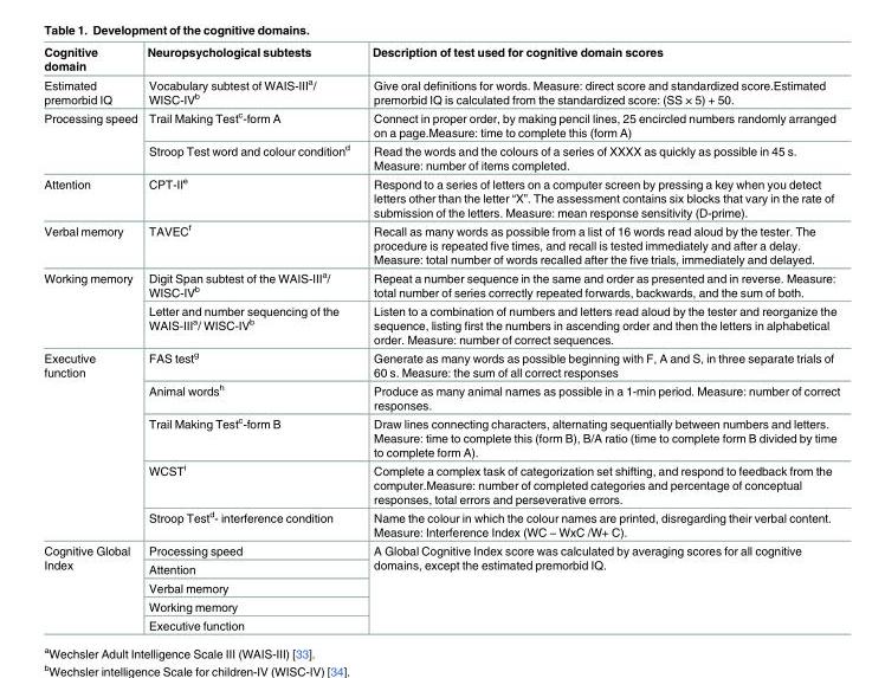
<table><thead><tr><td>Cognitive domain</td><td>Neuropsychological subtests</td><td>Description of test used for cognitive domain scores</td></tr></thead><tbody><tr><td>Estimated premorbid IQ</td><td>Vocabulary subtest of WAIS-III<sup>a</sup>/ WISC-IV<sup>b</sup></td><td>Give oral definitions for words. Measure: direct score and standardized score.Estimated premorbid IQ is calculated from the standardized score: (SS × 5) + 50.</td></tr><tr><td rowspan="2">Processing speed</td><td>Trail Making Test<sup>c</sup>-form A</td><td>Connect in proper order, by making pencil lines, 25 encircled numbers randomly arranged on a page.Measure: time to complete this (form A)</td></tr><tr><td>Stroop Test word and colour condition<sup>d</sup></td><td>Read the words and the colours of a series of XXXX as quickly as possible in 45 s. Measure: number of items completed.</td></tr><tr><td>Attention</td><td>CPT-II<sup>e</sup></td><td>Respond to a series of letters on a computer screen by pressing a key when you detect letters other than the letter “X”. The assessment contains six blocks that vary in the rate of submission of the letters. Measure: mean response sensitivity (D-prime).</td></tr><tr><td>Verbal memory</td><td>TAVEC<sup>f</sup></td><td>Recall as many words as possible from a list of 16 words read aloud by the tester. The procedure is repeated five times, and recall is tested immediately and after a delay. Measure: total number of words recalled after the five trials, immediately and delayed.</td></tr><tr><td rowspan="2">Working memory</td><td>Digit Span subtest of the WAIS-III<sup>a</sup>/ WISC-IV<sup>b</sup></td><td>Repeat a number sequence in the same and order as presented and in reverse. Measure: total number of series correctly repeated forwards, backwards, and the sum of both.</td></tr><tr><td>Letter and number sequencing of the WAIS-III<sup>a</sup>/ WISC-IV<sup>b</sup></td><td>Listen to a combination of numbers and letters read aloud by the tester and reorganize the sequence, listing first the numbers in ascending order and then the letters in alphabetical order. Measure: number of correct sequences.</td></tr><tr><td rowspan="5">Executive function</td><td>FAS test<sup>g</sup></td><td>Generate as many words as possible beginning with F, A and S, in three separate trials of 60 s. Measure: the sum of all correct responses</td></tr><tr><td>Animal words<sup>h</sup></td><td>Produce as many animal names as possible in a 1-min period. Measure: number of correct responses.</td></tr><tr><td>Trail Making Test<sup>c</sup>-form B</td><td>Draw lines connecting characters, alternating sequentially between numbers and letters. Measure: time to complete this (form B), B/A ratio (time to complete form B divided by time to complete form A).</td></tr><tr><td>WCST<sup>i</sup></td><td>Complete a complex task of categorization set shifting, and respond to feedback from the computer.Measure: number of completed categories and percentage of conceptual responses, total errors and perseverative errors.</td></tr><tr><td>Stroop Test<sup>d</sup>- interference condition</td><td>Name the colour in which the colour names are printed, disregarding their verbal content. Measure: Interference Index (WC − WxC /W+ C).</td></tr><tr><td rowspan="5">Cognitive Global Index</td><td>Processing speed</td><td rowspan="5">A Global Cognitive Index score was calculated by averaging scores for all cognitive domains, except the estimated premorbid IQ.</td></tr><tr><td>Attention</td></tr><tr><td>Verbal memory</td></tr><tr><td>Working memory</td></tr><tr><td>Executive function</td></tr></tbody></table>